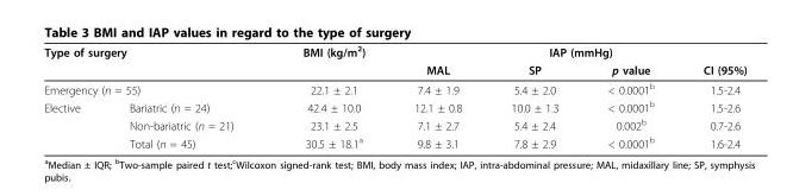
<table><thead><tr><td colspan="2">Type of surgery</td><td rowspan="2">BMI (kg/m<sup>2</sup>)</td><td colspan="4">IAP (mmHg)</td></tr><tr><td></td><td></td><td>MAL</td><td>SP</td><td>p value</td><td>CI (95%)</td></tr></thead><tbody><tr><td colspan="2">Emergency (n = 55)</td><td>22.1 ± 2.1</td><td>7.4 ± 1.9</td><td>5.4 ± 2.0</td><td>&lt; 0.0001<sup>b</sup></td><td>1.5-2.4</td></tr><tr><td rowspan="3">Elective</td><td>Bariatric (n = 24)</td><td>42.4 ± 10.0</td><td>12.1 ± 0.8</td><td>10.0 ± 1.3</td><td>&lt; 0.0001<sup>b</sup></td><td>1.5-2.6</td></tr><tr><td>Non-bariatric (n = 21)</td><td>23.1 ± 2.5</td><td>7.1 ± 2.7</td><td>5.4 ± 2.4</td><td>0.002<sup>b</sup></td><td>0.7-2.6</td></tr><tr><td>Total (n = 45)</td><td>30.5 ± 18.1<sup>a</sup></td><td>9.8 ± 3.1</td><td>7.8 ± 2.9</td><td>&lt; 0.0001<sup>b</sup></td><td>1.6-2.4</td></tr></tbody></table>